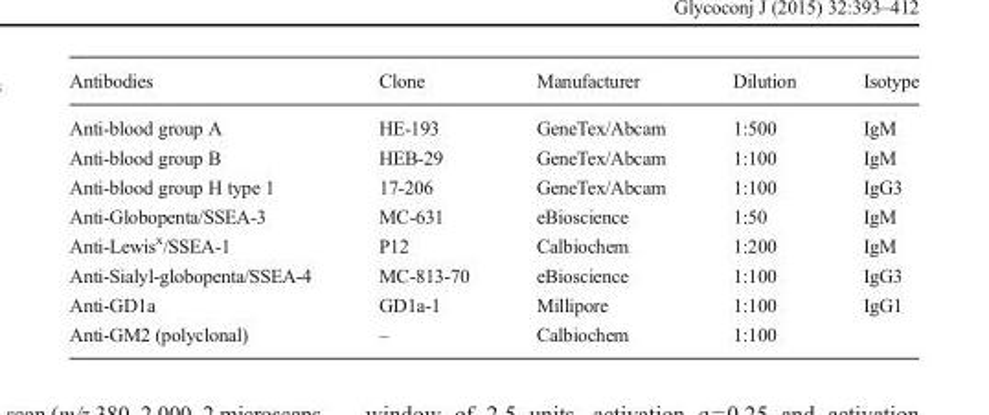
<table><thead><tr><td>Antibodies</td><td>Clone</td><td>Manufacturer</td><td>Dilution</td><td>Isotype</td></tr></thead><tbody><tr><td>Anti-blood group A</td><td>HE-193</td><td>GeneTex/Abcam</td><td>1:500</td><td>IgM</td></tr><tr><td>Anti-blood group B</td><td>HEB-29</td><td>GeneTex/Abcam</td><td>1:100</td><td>IgM</td></tr><tr><td>Anti-blood group H type 1</td><td>17-206</td><td>GeneTex/Abcam</td><td>1:100</td><td>IgG3</td></tr><tr><td>Anti-Globopenta/SSEA-3</td><td>MC-631</td><td>eBioscience</td><td>1:50</td><td>IgM</td></tr><tr><td>Anti-Lewis<sup>x</sup>/SSEA-1</td><td>P12</td><td>Calbiochem</td><td>1:200</td><td>IgM</td></tr><tr><td>Anti-Sialyl-globopenta/SSEA-4</td><td>MC-813-70</td><td>eBioscience</td><td>1:100</td><td>IgG3</td></tr><tr><td>Anti-GD1a</td><td>GD1a-1</td><td>Millipore</td><td>1:100</td><td>IgG1</td></tr><tr><td>Anti-GM2 (polyclonal)</td><td>–</td><td>Calbiochem</td><td>1:100</td><td></td></tr></tbody></table>